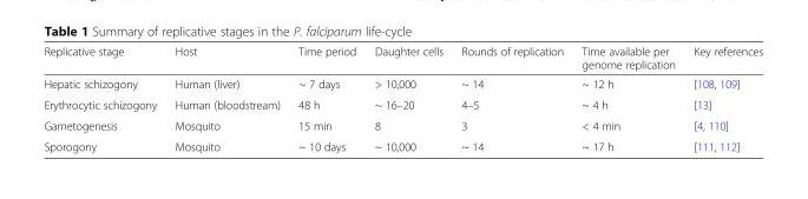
<table><thead><tr><td>Replicative stage</td><td>Host</td><td>Time period</td><td>Daughter cells</td><td>Rounds of replication</td><td>Time available per genome replication</td><td>Key references</td></tr></thead><tbody><tr><td>Hepatic schizogony</td><td>Human (liver)</td><td>~ 7 days</td><td>&gt; 10,000</td><td>~ 14</td><td>~ 12 h</td><td>[108, 109]</td></tr><tr><td>Erythrocytic schizogony</td><td>Human (bloodstream)</td><td>48 h</td><td>~ 16–20</td><td>4–5</td><td>~ 4 h</td><td>[13]</td></tr><tr><td>Gametogenesis</td><td>Mosquito</td><td>15 min</td><td>8</td><td>3</td><td>&lt; 4 min</td><td>[4, 110]</td></tr><tr><td>Sporogony</td><td>Mosquito</td><td>~ 10 days</td><td>~ 10,000</td><td>~ 14</td><td>~ 17 h</td><td>[111, 112]</td></tr></tbody></table>